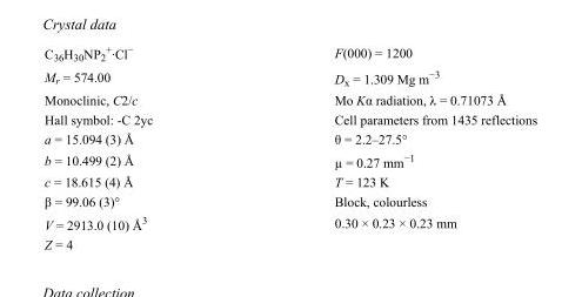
<table><tbody><tr><td>C<sub>36</sub>H<sub>30</sub>NP<sub>2</sub> <sup>+</sup>·Cl<sup>−</sup></td><td>F(000) = 1200</td></tr><tr><td>M<sub>r</sub> = 574.00</td><td>D<sub>x</sub> = 1.309 Mg m<sup>−3</sup></td></tr><tr><td>Monoclinic, C2/c</td><td>Mo Kα radiation, λ = 0.71073 Å</td></tr><tr><td>Hall symbol: -C 2yc</td><td>Cell parameters from 1435 reflections</td></tr><tr><td>a = 15.094 (3) Å</td><td>θ = 2.2–27.5°</td></tr><tr><td>b = 10.499 (2) Å</td><td>µ = 0.27 mm<sup>−1</sup></td></tr><tr><td>c = 18.615 (4) Å</td><td>T = 123 K</td></tr><tr><td>β = 99.06 (3)°</td><td>Block, colourless</td></tr><tr><td>V = 2913.0 (10) Å<sup>3</sup></td><td>0.30 × 0.23 × 0.23 mm</td></tr><tr><td>Z = 4</td><td></td></tr></tbody></table>